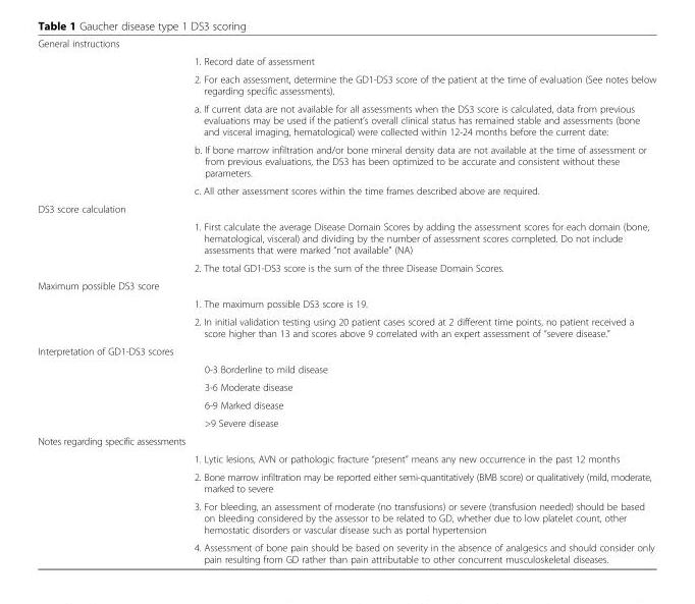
<table><tbody><tr><td colspan="2">General instructions</td></tr><tr><td></td><td>1. Record date of assessment</td></tr><tr><td></td><td>2. For each assessment, determine the GD1-DS3 score of the patient at the time of evaluation (See notes below regarding specific assessments).</td></tr><tr><td></td><td>a. If current data are not available for all assessments when the DS3 score is calculated, data from previous evaluations may be used if the patient’s overall clinical status has remained stable and assessments (bone and visceral imaging, hematological) were collected within 12-24 months before the current date:</td></tr><tr><td></td><td>b. If bone marrow infiltration and/or bone mineral density data are not available at the time of assessment or from previous evaluations, the DS3 has been optimized to be accurate and consistent without these parameters.</td></tr><tr><td></td><td>c. All other assessment scores within the time frames described above are required.</td></tr><tr><td colspan="2">DS3 score calculation</td></tr><tr><td></td><td>1. First calculate the average Disease Domain Scores by adding the assessment scores for each domain (bone, hematological, visceral) and dividing by the number of assessment scores completed. Do not include assessments that were marked “not available” (NA)</td></tr><tr><td></td><td>2. The total GD1-DS3 score is the sum of the three Disease Domain Scores.</td></tr><tr><td colspan="2">Maximum possible DS3 score</td></tr><tr><td></td><td>1. The maximum possible DS3 score is 19.</td></tr><tr><td></td><td>2. In initial validation testing using 20 patient cases scored at 2 different time points, no patient received a score higher than 13 and scores above 9 correlated with an expert assessment of “severe disease.”</td></tr><tr><td colspan="2">Interpretation of GD1-DS3 scores</td></tr><tr><td></td><td>0-3 Borderline to mild disease</td></tr><tr><td></td><td>3-6 Moderate disease</td></tr><tr><td></td><td>6-9 Marked disease</td></tr><tr><td></td><td>&gt;9 Severe disease</td></tr><tr><td colspan="2">Notes regarding specific assessments</td></tr><tr><td></td><td>1. Lytic lesions, AVN or pathologic fracture “present” means any new occurrence in the past 12 months</td></tr><tr><td></td><td>2. Bone marrow infiltration may be reported either semi-quantitatively (BMB score) or qualitatively (mild, moderate, marked to severe</td></tr><tr><td></td><td>3. For bleeding, an assessment of moderate (no transfusions) or severe (transfusion needed) should be based on bleeding considered by the assessor to be related to GD, whether due to low platelet count, other hemostatic disorders or vascular disease such as portal hypertension</td></tr><tr><td></td><td>4. Assessment of bone pain should be based on severity in the absence of analgesics and should consider only pain resulting from GD rather than pain attributable to other concurrent musculoskeletal diseases.</td></tr></tbody></table>